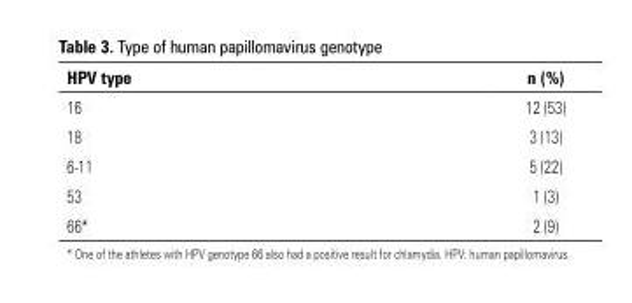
<table><thead><tr><td>HPV type</td><td>n (%)</td></tr></thead><tbody><tr><td>16</td><td>12 (53)</td></tr><tr><td>18</td><td>3 (13)</td></tr><tr><td>6-11</td><td>5 (22)</td></tr><tr><td>53</td><td>1 (3)</td></tr><tr><td>66*</td><td>2 (9)</td></tr></tbody></table>